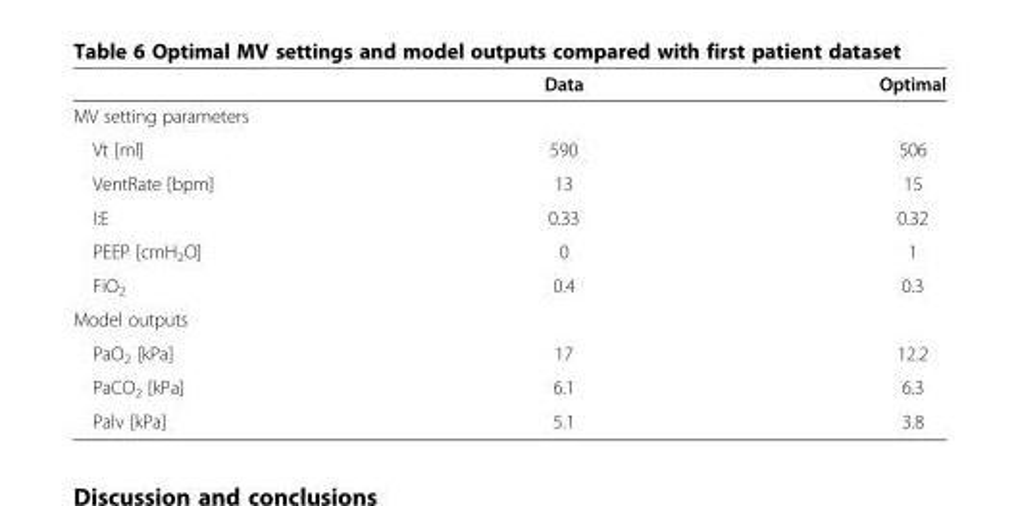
<table><thead><tr><td></td><td>Data</td><td>Optimal</td></tr></thead><tbody><tr><td colspan="3">MV setting parameters</td></tr><tr><td>Vt [ml]</td><td>590</td><td>506</td></tr><tr><td>VentRate [bpm]</td><td>13</td><td>15</td></tr><tr><td>I:E</td><td>0.33</td><td>0.32</td></tr><tr><td>PEEP [cmH<sub>2</sub>O]</td><td>0</td><td>1</td></tr><tr><td>FiO<sub>2</sub></td><td>0.4</td><td>0.3</td></tr><tr><td colspan="3">Model outputs</td></tr><tr><td>PaO<sub>2</sub> [kPa]</td><td>17</td><td>12.2</td></tr><tr><td>PaCO<sub>2</sub> [kPa]</td><td>6.1</td><td>6.3</td></tr><tr><td>Palv [kPa]</td><td>5.1</td><td>3.8</td></tr></tbody></table>